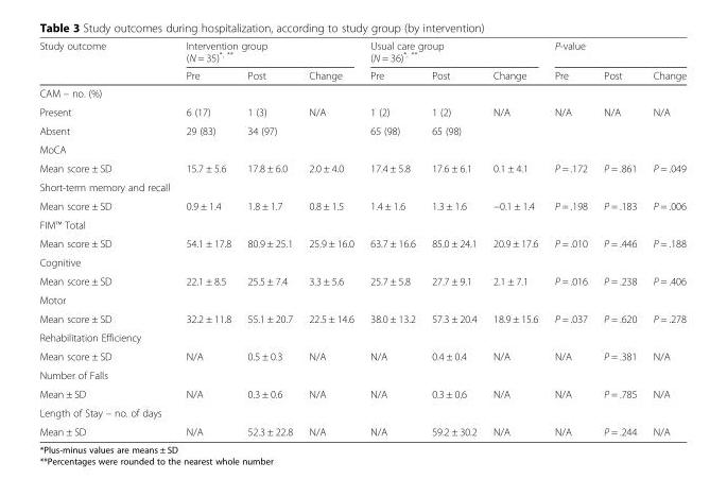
<table><thead><tr><td rowspan="2">Study outcome</td><td colspan="3">Intervention group (N = 35)<sup>*, **</sup></td><td colspan="3">Usual care group (N = 36)<sup>*, **</sup></td><td colspan="3">P-value</td></tr><tr><td>Pre</td><td>Post</td><td>Change</td><td>Pre</td><td>Post</td><td>Change</td><td>Pre</td><td>Post</td><td>Change</td></tr></thead><tbody><tr><td colspan="10">CAM – no. (%)</td></tr><tr><td>Present</td><td>6 (17)</td><td>1 (3)</td><td>N/A</td><td>1 (2)</td><td>1 (2)</td><td>N/A</td><td>N/A</td><td>N/A</td><td>N/A</td></tr><tr><td>Absent</td><td>29 (83)</td><td>34 (97)</td><td></td><td>65 (98)</td><td>65 (98)</td><td></td><td></td><td></td><td></td></tr><tr><td colspan="10">MoCA</td></tr><tr><td>Mean score ± SD</td><td>15.7 ± 5.6</td><td>17.8 ± 6.0</td><td>2.0 ± 4.0</td><td>17.4 ± 5.8</td><td>17.6 ± 6.1</td><td>0.1 ± 4.1</td><td>P = .172</td><td>P = .861</td><td>P = .049</td></tr><tr><td colspan="10">Short-term memory and recall</td></tr><tr><td>Mean score ± SD</td><td>0.9 ± 1.4</td><td>1.8 ± 1.7</td><td>0.8 ± 1.5</td><td>1.4 ± 1.6</td><td>1.3 ± 1.6</td><td>−0.1 ± 1.4</td><td>P = .198</td><td>P = .183</td><td>P = .006</td></tr><tr><td colspan="10">FIM™ Total</td></tr><tr><td>Mean score ± SD</td><td>54.1 ± 17.8</td><td>80.9 ± 25.1</td><td>25.9 ± 16.0</td><td>63.7 ± 16.6</td><td>85.0 ± 24.1</td><td>20.9 ± 17.6</td><td>P = .010</td><td>P = .446</td><td>P = .188</td></tr><tr><td colspan="10">Cognitive</td></tr><tr><td>Mean score ± SD</td><td>22.1 ± 8.5</td><td>25.5 ± 7.4</td><td>3.3 ± 5.6</td><td>25.7 ± 5.8</td><td>27.7 ± 9.1</td><td>2.1 ± 7.1</td><td>P = .016</td><td>P = .238</td><td>P = .406</td></tr><tr><td colspan="10">Motor</td></tr><tr><td>Mean score ± SD</td><td>32.2 ± 11.8</td><td>55.1 ± 20.7</td><td>22.5 ± 14.6</td><td>38.0 ± 13.2</td><td>57.3 ± 20.4</td><td>18.9 ± 15.6</td><td>P = .037</td><td>P = .620</td><td>P = .278</td></tr><tr><td colspan="10">Rehabilitation Efficiency</td></tr><tr><td>Mean score ± SD</td><td>N/A</td><td>0.5 ± 0.3</td><td>N/A</td><td>N/A</td><td>0.4 ± 0.4</td><td>N/A</td><td>N/A</td><td>P = .381</td><td>N/A</td></tr><tr><td colspan="10">Number of Falls</td></tr><tr><td>Mean ± SD</td><td>N/A</td><td>0.3 ± 0.6</td><td>N/A</td><td>N/A</td><td>0.3 ± 0.6</td><td>N/A</td><td>N/A</td><td>P = .785</td><td>N/A</td></tr><tr><td colspan="10">Length of Stay – no. of days</td></tr><tr><td>Mean ± SD</td><td>N/A</td><td>52.3 ± 22.8</td><td>N/A</td><td>N/A</td><td>59.2 ± 30.2</td><td>N/A</td><td>N/A</td><td>P = .244</td><td>N/A</td></tr></tbody></table>